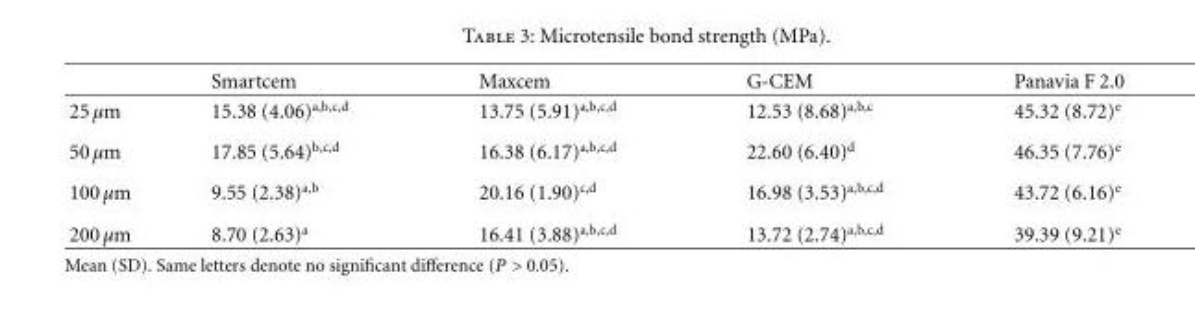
<table><thead><tr><td></td><td>Smartcem</td><td>Maxcem</td><td>G-CEM</td><td>Panavia F 2.0</td></tr></thead><tbody><tr><td>25 μm</td><td>15.38 (4.06)<sup>a,b,c,d</sup></td><td>13.75 (5.91)<sup>a,b,c,d</sup></td><td>12.53 (8.68)<sup>a,b,c</sup></td><td>45.32 (8.72)<sup>e</sup></td></tr><tr><td>50 μm</td><td>17.85 (5.64)<sup>b,c,d</sup></td><td>16.38 (6.17)<sup>a,b,c,d</sup></td><td>22.60 (6.40)<sup>d</sup></td><td>46.35 (7.76)<sup>e</sup></td></tr><tr><td>100 μm</td><td>9.55 (2.38)<sup>a,b</sup></td><td>20.16 (1.90)<sup>c,d</sup></td><td>16.98 (3.53)<sup>a,b,c,d</sup></td><td>43.72 (6.16)<sup>e</sup></td></tr><tr><td>200 μm</td><td>8.70 (2.63)<sup>a</sup></td><td>16.41 (3.88)<sup>a,b,c,d</sup></td><td>13.72 (2.74)<sup>a,b,c,d</sup></td><td>39.39 (9.21)<sup>e</sup></td></tr></tbody></table>